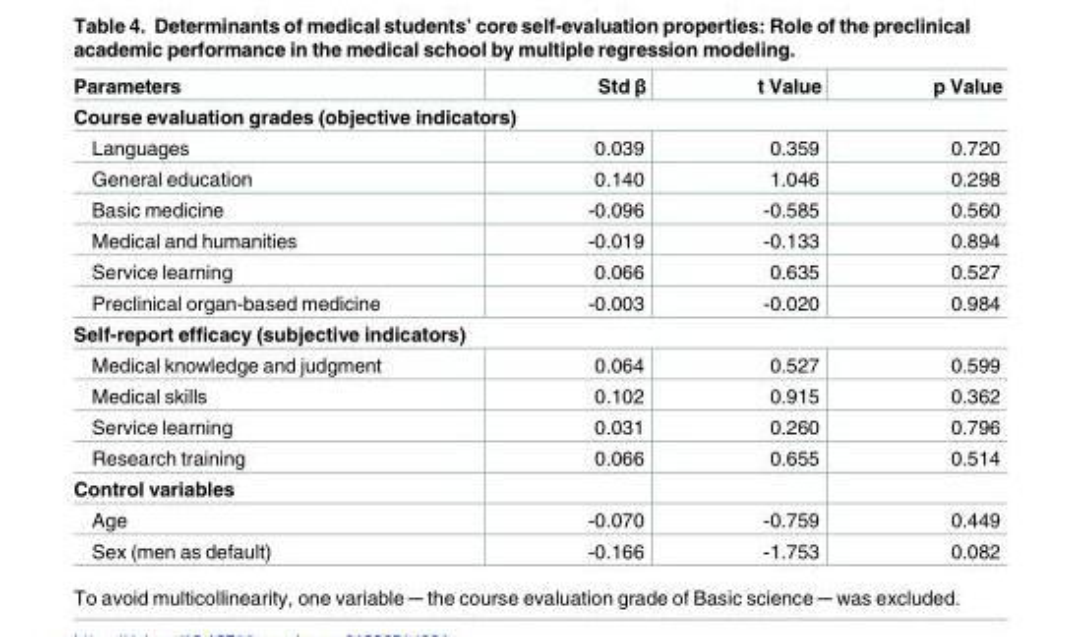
<table><thead><tr><td>Parameters</td><td>Std β</td><td>t Value</td><td>p Value</td></tr></thead><tbody><tr><td colspan="4">Course evaluation grades (objective indicators)</td></tr><tr><td>Languages</td><td>0.039</td><td>0.359</td><td>0.720</td></tr><tr><td>General education</td><td>0.140</td><td>1.046</td><td>0.298</td></tr><tr><td>Basic medicine</td><td>-0.096</td><td>-0.585</td><td>0.560</td></tr><tr><td>Medical and humanities</td><td>-0.019</td><td>-0.133</td><td>0.894</td></tr><tr><td>Service learning</td><td>0.066</td><td>0.635</td><td>0.527</td></tr><tr><td>Preclinical organ-based medicine</td><td>-0.003</td><td>-0.020</td><td>0.984</td></tr><tr><td colspan="4">Self-report efficacy (subjective indicators)</td></tr><tr><td>Medical knowledge and judgment</td><td>0.064</td><td>0.527</td><td>0.599</td></tr><tr><td>Medical skills</td><td>0.102</td><td>0.915</td><td>0.362</td></tr><tr><td>Service learning</td><td>0.031</td><td>0.260</td><td>0.796</td></tr><tr><td>Research training</td><td>0.066</td><td>0.655</td><td>0.514</td></tr><tr><td colspan="4">Control variables</td></tr><tr><td>Age</td><td>-0.070</td><td>-0.759</td><td>0.449</td></tr><tr><td>Sex (men as default)</td><td>-0.166</td><td>-1.753</td><td>0.082</td></tr></tbody></table>